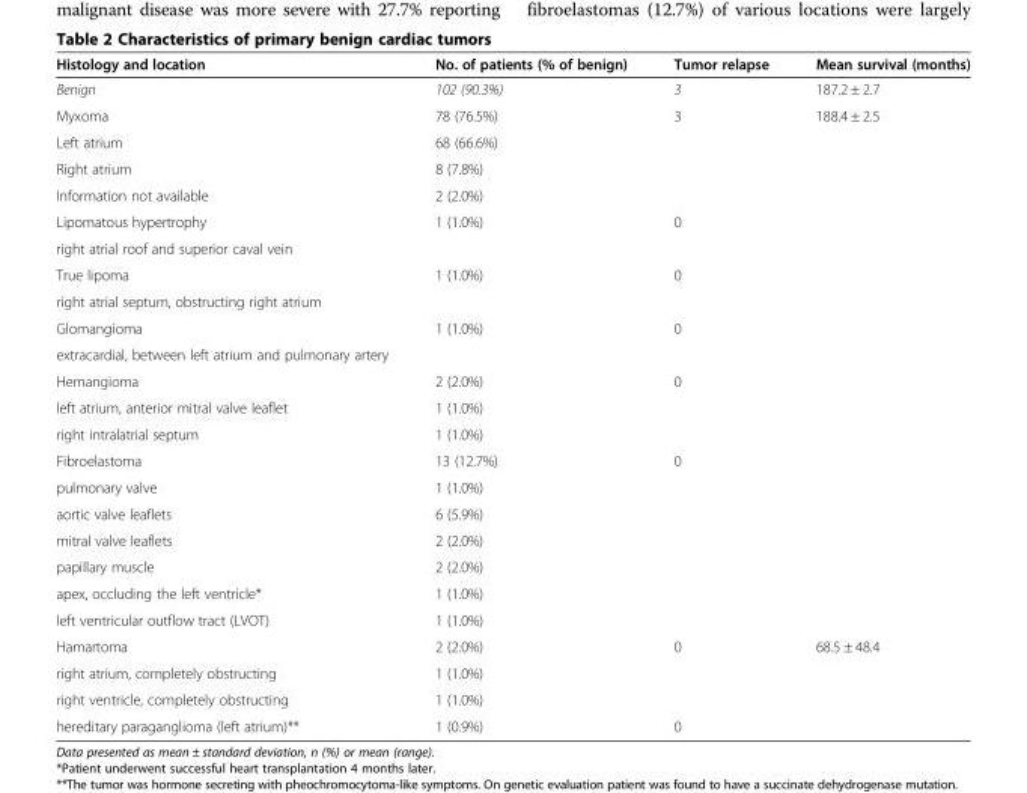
<table><thead><tr><td>Histology and location</td><td>No. of patients (% of benign)</td><td>Tumor relapse</td><td>Mean survival (months)</td></tr></thead><tbody><tr><td>Benign</td><td>102 (90.3%)</td><td>3</td><td>187.2 ± 2.7</td></tr><tr><td>Myxoma</td><td>78 (76.5%)</td><td>3</td><td>188.4 ± 2.5</td></tr><tr><td>Left atrium</td><td>68 (66.6%)</td><td></td><td></td></tr><tr><td>Right atrium</td><td>8 (7.8%)</td><td></td><td></td></tr><tr><td>Information not available</td><td>2 (2.0%)</td><td></td><td></td></tr><tr><td>Lipomatous hypertrophy</td><td>1 (1.0%)</td><td>0</td><td></td></tr><tr><td colspan="4">right atrial roof and superior caval vein</td></tr><tr><td>True lipoma</td><td>1 (1.0%)</td><td>0</td><td></td></tr><tr><td colspan="4">right atrial septum, obstructing right atrium</td></tr><tr><td>Glomangioma</td><td>1 (1.0%)</td><td>0</td><td></td></tr><tr><td colspan="4">extracardial, between left atrium and pulmonary artery</td></tr><tr><td>Hemangioma</td><td>2 (2.0%)</td><td>0</td><td></td></tr><tr><td>left atrium, anterior mitral valve leaflet</td><td>1 (1.0%)</td><td></td><td></td></tr><tr><td>right intralatrial septum</td><td>1 (1.0%)</td><td></td><td></td></tr><tr><td>Fibroelastoma</td><td>13 (12.7%)</td><td>0</td><td></td></tr><tr><td>pulmonary valve</td><td>1 (1.0%)</td><td></td><td></td></tr><tr><td>aortic valve leaflets</td><td>6 (5.9%)</td><td></td><td></td></tr><tr><td>mitral valve leaflets</td><td>2 (2.0%)</td><td></td><td></td></tr><tr><td>papillary muscle</td><td>2 (2.0%)</td><td></td><td></td></tr><tr><td>apex, occluding the left ventricle*</td><td>1 (1.0%)</td><td></td><td></td></tr><tr><td>left ventricular outflow tract (LVOT)</td><td>1 (1.0%)</td><td></td><td></td></tr><tr><td>Hamartoma</td><td>2 (2.0%)</td><td>0</td><td>68.5 ± 48.4</td></tr><tr><td>right atrium, completely obstructing</td><td>1 (1.0%)</td><td></td><td></td></tr><tr><td>right ventricle, completely obstructing</td><td>1 (1.0%)</td><td></td><td></td></tr><tr><td>hereditary paraganglioma (left atrium)**</td><td>1 (0.9%)</td><td>0</td><td></td></tr></tbody></table>